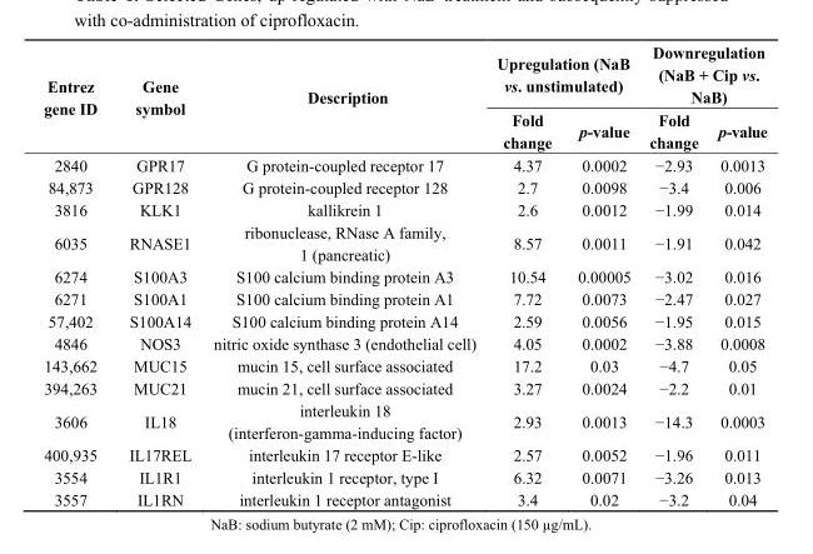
<table><thead><tr><td rowspan="2">Entrez gene ID</td><td rowspan="2">Gene symbol</td><td rowspan="2">Description</td><td colspan="2">Upregulation (NaB vs. unstimulated)</td><td colspan="2">Downregulation (NaB + Cip vs. NaB)</td></tr><tr><td>Fold change</td><td>p-value</td><td>Fold change</td><td>p-value</td></tr></thead><tbody><tr><td>2840</td><td>GPR17</td><td>G protein-coupled receptor 17</td><td>4.37</td><td>0.0002</td><td>−2.93</td><td>0.0013</td></tr><tr><td>84,873</td><td>GPR128</td><td>G protein-coupled receptor 128</td><td>2.7</td><td>0.0098</td><td>−3.4</td><td>0.006</td></tr><tr><td>3816</td><td>KLK1</td><td>kallikrein 1</td><td>2.6</td><td>0.0012</td><td>−1.99</td><td>0.014</td></tr><tr><td>6035</td><td>RNASE1</td><td>ribonuclease, RNase A family, 1 (pancreatic)</td><td>8.57</td><td>0.0011</td><td>−1.91</td><td>0.042</td></tr><tr><td>6274</td><td>S100A3</td><td>S100 calcium binding protein A3</td><td>10.54</td><td>0.00005</td><td>−3.02</td><td>0.016</td></tr><tr><td>6271</td><td>S100A1</td><td>S100 calcium binding protein A1</td><td>7.72</td><td>0.0073</td><td>−2.47</td><td>0.027</td></tr><tr><td>57,402</td><td>S100A14</td><td>S100 calcium binding protein A14</td><td>2.59</td><td>0.0056</td><td>−1.95</td><td>0.015</td></tr><tr><td>4846</td><td>NOS3</td><td>nitric oxide synthase 3 (endothelial cell)</td><td>4.05</td><td>0.0002</td><td>−3.88</td><td>0.0008</td></tr><tr><td>143,662</td><td>MUC15</td><td>mucin 15, cell surface associated</td><td>17.2</td><td>0.03</td><td>−4.7</td><td>0.05</td></tr><tr><td>394,263</td><td>MUC21</td><td>mucin 21, cell surface associated</td><td>3.27</td><td>0.0024</td><td>−2.2</td><td>0.01</td></tr><tr><td>3606</td><td>IL18</td><td>interleukin 18 (interferon-gamma-inducing factor)</td><td>2.93</td><td>0.0013</td><td>−14.3</td><td>0.0003</td></tr><tr><td>400,935</td><td>IL17REL</td><td>interleukin 17 receptor E-like</td><td>2.57</td><td>0.0052</td><td>−1.96</td><td>0.011</td></tr><tr><td>3554</td><td>IL1R1</td><td>interleukin 1 receptor, type I</td><td>6.32</td><td>0.0071</td><td>−3.26</td><td>0.013</td></tr><tr><td>3557</td><td>IL1RN</td><td>interleukin 1 receptor antagonist</td><td>3.4</td><td>0.02</td><td>−3.2</td><td>0.04</td></tr></tbody></table>